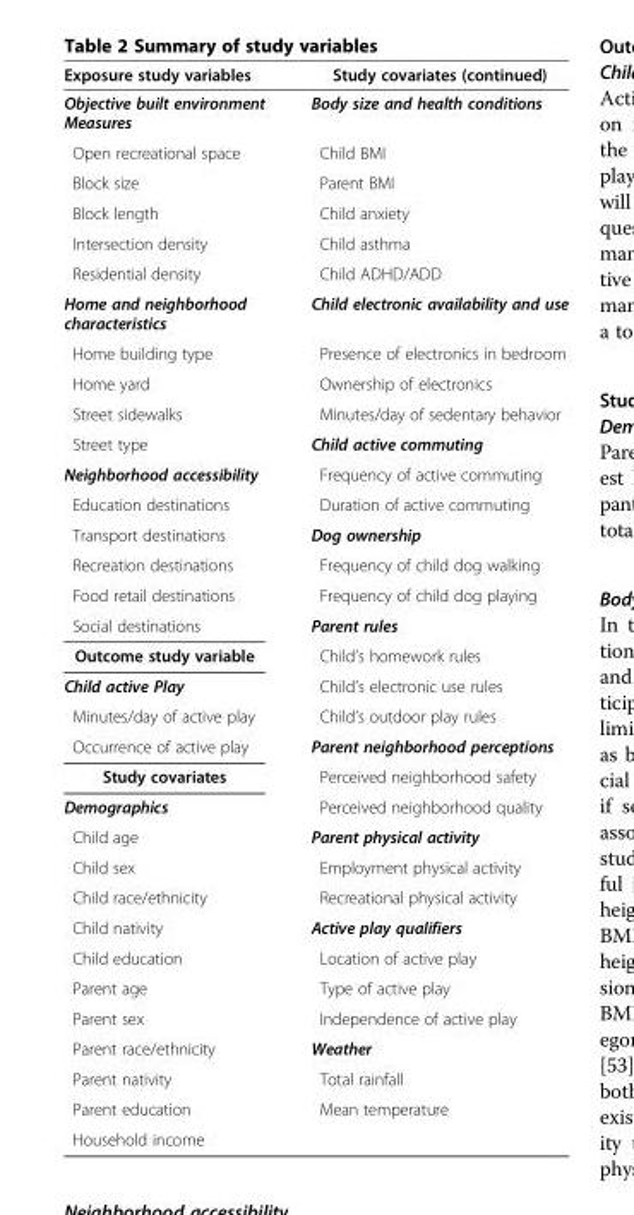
<table><thead><tr><td>Exposure study variables</td><td>Study covariates (continued)</td></tr></thead><tbody><tr><td>Objective built environment Measures</td><td>Body size and health conditions</td></tr><tr><td>Open recreational space</td><td>Child BMI</td></tr><tr><td>Block size</td><td>Parent BMI</td></tr><tr><td>Block length</td><td>Child anxiety</td></tr><tr><td>Intersection density</td><td>Child asthma</td></tr><tr><td>Residential density</td><td>Child ADHD/ADD</td></tr><tr><td>Home and neighborhood characteristics</td><td>Child electronic availability and use</td></tr><tr><td>Home building type</td><td>Presence of electronics in bedroom</td></tr><tr><td>Home yard</td><td>Ownership of electronics</td></tr><tr><td>Street sidewalks</td><td>Minutes/day of sedentary behavior</td></tr><tr><td>Street type</td><td>Child active commuting</td></tr><tr><td>Neighborhood accessibility</td><td>Frequency of active commuting</td></tr><tr><td>Education destinations</td><td>Duration of active commuting</td></tr><tr><td>Transport destinations</td><td>Dog ownership</td></tr><tr><td>Recreation destinations</td><td>Frequency of child dog walking</td></tr><tr><td>Food retail destinations</td><td>Frequency of child dog playing</td></tr><tr><td>Social destinations</td><td>Parent rules</td></tr><tr><td>Outcome study variable</td><td>Child’s homework rules</td></tr><tr><td>Child active Play</td><td>Child’s electronic use rules</td></tr><tr><td>Minutes/day of active play</td><td>Child’s outdoor play rules</td></tr><tr><td>Occurrence of active play</td><td>Parent neighborhood perceptions</td></tr><tr><td>Study covariates</td><td>Perceived neighborhood safety</td></tr><tr><td>Demographics</td><td>Perceived neighborhood quality</td></tr><tr><td>Child age</td><td>Parent physical activity</td></tr><tr><td>Child sex</td><td>Employment physical activity</td></tr><tr><td>Child race/ethnicity</td><td>Recreational physical activity</td></tr><tr><td>Child nativity</td><td>Active play qualifiers</td></tr><tr><td>Child education</td><td>Location of active play</td></tr><tr><td>Parent age</td><td>Type of active play</td></tr><tr><td>Parent sex</td><td>Independence of active play</td></tr><tr><td>Parent race/ethnicity</td><td>Weather</td></tr><tr><td>Parent nativity</td><td>Total rainfall</td></tr><tr><td>Parent education</td><td>Mean temperature</td></tr><tr><td>Household income</td><td></td></tr></tbody></table>